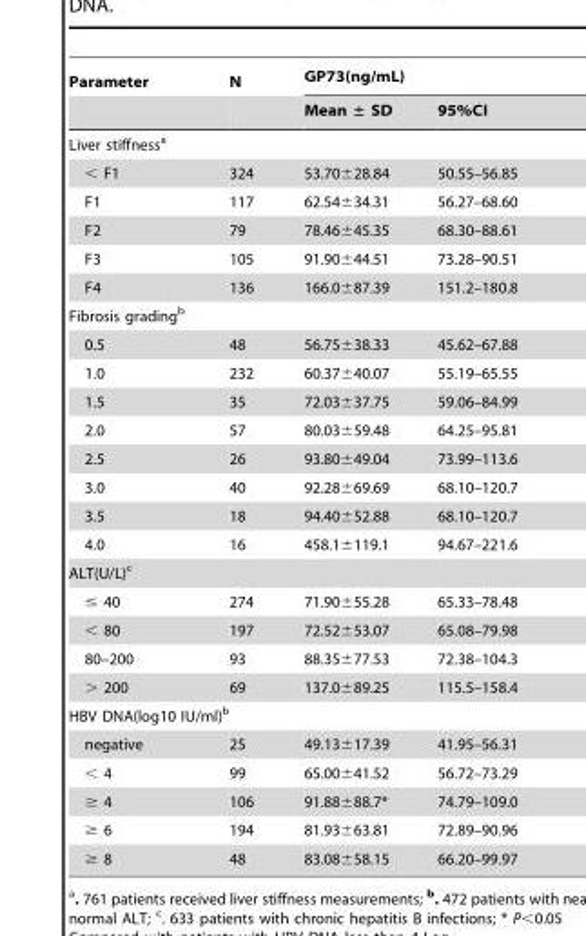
<table><thead><tr><td rowspan="2">Parameter</td><td rowspan="2">N</td><td colspan="2">GP73(ng/mL)</td></tr><tr><td>Mean ± SD</td><td>95%CI</td></tr></thead><tbody><tr><td colspan="4">Liver stiffness<sup>a</sup></td></tr><tr><td>&lt; F1</td><td>324</td><td>53.70±28.84</td><td>50.55–56.85</td></tr><tr><td>F1</td><td>117</td><td>62.54±34.31</td><td>56.27–68.60</td></tr><tr><td>F2</td><td>79</td><td>78.46±45.35</td><td>68.30–88.61</td></tr><tr><td>F3</td><td>105</td><td>91.90±44.51</td><td>73.28–90.51</td></tr><tr><td>F4</td><td>136</td><td>166.0±87.39</td><td>151.2–180.8</td></tr><tr><td colspan="4">Fibrosis grading<sup>b</sup></td></tr><tr><td>0.5</td><td>48</td><td>56.75±38.33</td><td>45.62–67.88</td></tr><tr><td>1.0</td><td>232</td><td>60.37±40.07</td><td>55.19–65.55</td></tr><tr><td>1.5</td><td>35</td><td>72.03±37.75</td><td>59.06–84.99</td></tr><tr><td>2.0</td><td>57</td><td>80.03±59.48</td><td>64.25–95.81</td></tr><tr><td>2.5</td><td>26</td><td>93.80±49.04</td><td>73.99–113.6</td></tr><tr><td>3.0</td><td>40</td><td>92.28±69.69</td><td>68.10–120.7</td></tr><tr><td>3.5</td><td>18</td><td>94.40±52.88</td><td>68.10–120.7</td></tr><tr><td>4.0</td><td>16</td><td>458.1±119.1</td><td>94.67–221.6</td></tr><tr><td colspan="4">ALT(U/L)<sup>c</sup></td></tr><tr><td>≤ 40</td><td>274</td><td>71.90±55.28</td><td>65.33–78.48</td></tr><tr><td>&lt; 80</td><td>197</td><td>72.52±53.07</td><td>65.08–79.98</td></tr><tr><td>80–200</td><td>93</td><td>88.35±77.53</td><td>72.38–104.3</td></tr><tr><td>&gt; 200</td><td>69</td><td>137.0±89.25</td><td>115.5–158.4</td></tr><tr><td colspan="4">HBV DNA(log10 IU/ml)<sup>b</sup></td></tr><tr><td>negative</td><td>25</td><td>49.13±17.39</td><td>41.95–56.31</td></tr><tr><td>&lt; 4</td><td>99</td><td>65.00±41.52</td><td>56.72–73.29</td></tr><tr><td>≥ 4</td><td>106</td><td>91.88±88.7*</td><td>74.79–109.0</td></tr><tr><td>≥ 6</td><td>194</td><td>81.93±63.81</td><td>72.89–90.96</td></tr><tr><td>≥ 8</td><td>48</td><td>83.08±58.15</td><td>66.20–99.97</td></tr></tbody></table>